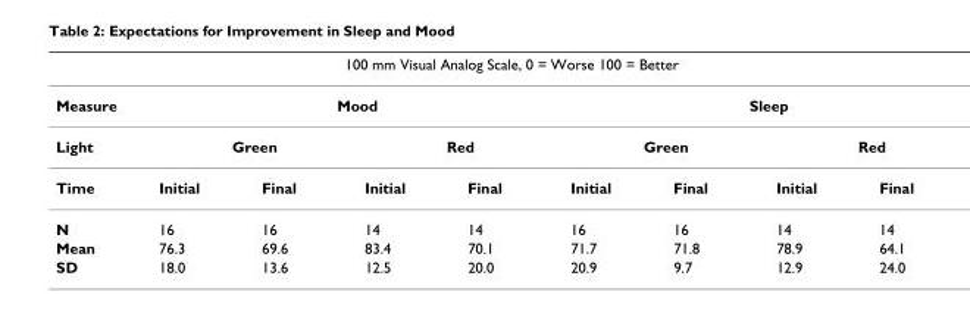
<table><thead><tr><td colspan="9">100 mm Visual Analog Scale, 0 = Worse 100 = Better</td></tr><tr><td rowspan="3">Measure Light Time</td><td colspan="4">Mood</td><td colspan="4">Sleep</td></tr><tr><td colspan="2">Green</td><td colspan="2">Red</td><td colspan="2">Green</td><td colspan="2">Red</td></tr><tr><td>Initial</td><td>Final</td><td>Initial</td><td>Final</td><td>Initial</td><td>Final</td><td>Initial</td><td>Final</td></tr></thead><tbody><tr><td>N</td><td>16</td><td>16</td><td>14</td><td>14</td><td>16</td><td>16</td><td>14</td><td>14</td></tr><tr><td>Mean</td><td>76.3</td><td>69.6</td><td>83.4</td><td>70.1</td><td>71.7</td><td>71.8</td><td>78.9</td><td>64.1</td></tr><tr><td>SD</td><td>18.0</td><td>13.6</td><td>12.5</td><td>20.0</td><td>20.9</td><td>9.7</td><td>12.9</td><td>24.0</td></tr></tbody></table>